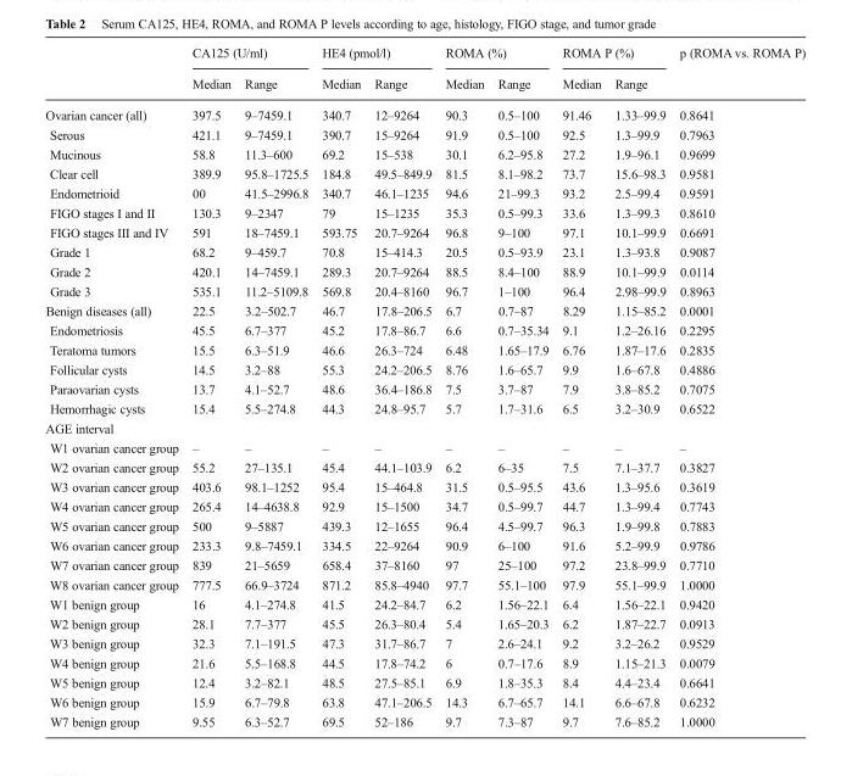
<table><thead><tr><td rowspan="2"></td><td colspan="2">CA125 (U/ml)</td><td colspan="2">HE4 (pmol/l)</td><td colspan="2">ROMA (%)</td><td colspan="2">ROMA P (%)</td><td rowspan="2">p (ROMA vs. ROMA P)</td></tr><tr><td>Median</td><td>Range</td><td>Median</td><td>Range</td><td>Median</td><td>Range</td><td>Median</td><td>Range</td></tr></thead><tbody><tr><td>Ovarian cancer (all)</td><td>397.5</td><td>9–7459.1</td><td>340.7</td><td>12–9264</td><td>90.3</td><td>0.5–100</td><td>91.46</td><td>1.33–99.9</td><td>0.8641</td></tr><tr><td>Serous</td><td>421.1</td><td>9–7459.1</td><td>390.7</td><td>15–9264</td><td>91.9</td><td>0.5–100</td><td>92.5</td><td>1.3–99.9</td><td>0.7963</td></tr><tr><td>Mucinous</td><td>58.8</td><td>11.3–600</td><td>69.2</td><td>15–538</td><td>30.1</td><td>6.2–95.8</td><td>27.2</td><td>1.9–96.1</td><td>0.9699</td></tr><tr><td>Clear cell</td><td>389.9</td><td>95.8–1725.5</td><td>184.8</td><td>49.5–849.9</td><td>81.5</td><td>8.1–98.2</td><td>73.7</td><td>15.6–98.3</td><td>0.9581</td></tr><tr><td>Endometrioid</td><td>00</td><td>41.5–2996.8</td><td>340.7</td><td>46.1–1235</td><td>94.6</td><td>21–99.3</td><td>93.2</td><td>2.5–99.4</td><td>0.9591</td></tr><tr><td>FIGO stages I and II</td><td>130.3</td><td>9–2347</td><td>79</td><td>15–1235</td><td>35.3</td><td>0.5–99.3</td><td>33.6</td><td>1.3–99.3</td><td>0.8610</td></tr><tr><td>FIGO stages III and IV</td><td>591</td><td>18–7459.1</td><td>593.75</td><td>20.7–9264</td><td>96.8</td><td>9–100</td><td>97.1</td><td>10.1–99.9</td><td>0.6691</td></tr><tr><td>Grade 1</td><td>68.2</td><td>9–459.7</td><td>70.8</td><td>15–414.3</td><td>20.5</td><td>0.5–93.9</td><td>23.1</td><td>1.3–93.8</td><td>0.9087</td></tr><tr><td>Grade 2</td><td>420.1</td><td>14–7459.1</td><td>289.3</td><td>20.7–9264</td><td>88.5</td><td>8.4–100</td><td>88.9</td><td>10.1–99.9</td><td>0.0114</td></tr><tr><td>Grade 3</td><td>535.1</td><td>11.2–5109.8</td><td>569.8</td><td>20.4–8160</td><td>96.7</td><td>1–100</td><td>96.4</td><td>2.98–99.9</td><td>0.8963</td></tr><tr><td>Benign diseases (all)</td><td>22.5</td><td>3.2–502.7</td><td>46.7</td><td>17.8–206.5</td><td>6.7</td><td>0.7–87</td><td>8.29</td><td>1.15–85.2</td><td>0.0001</td></tr><tr><td>Endometriosis</td><td>45.5</td><td>6.7–377</td><td>45.2</td><td>17.8–86.7</td><td>6.6</td><td>0.7–35.34</td><td>9.1</td><td>1.2–26.16</td><td>0.2295</td></tr><tr><td>Teratoma tumors</td><td>15.5</td><td>6.3–51.9</td><td>46.6</td><td>26.3–724</td><td>6.48</td><td>1.65–17.9</td><td>6.76</td><td>1.87–17.6</td><td>0.2835</td></tr><tr><td>Follicular cysts</td><td>14.5</td><td>3.2–88</td><td>55.3</td><td>24.2–206.5</td><td>8.76</td><td>1.6–65.7</td><td>9.9</td><td>1.6–67.8</td><td>0.4886</td></tr><tr><td>Paraovarian cysts</td><td>13.7</td><td>4.1–52.7</td><td>48.6</td><td>36.4–186.8</td><td>7.5</td><td>3.7–87</td><td>7.9</td><td>3.8–85.2</td><td>0.7075</td></tr><tr><td>Hemorrhagic cysts</td><td>15.4</td><td>5.5–274.8</td><td>44.3</td><td>24.8–95.7</td><td>5.7</td><td>1.7–31.6</td><td>6.5</td><td>3.2–30.9</td><td>0.6522</td></tr><tr><td colspan="10">AGE interval</td></tr><tr><td>W1 ovarian cancer group</td><td>–</td><td>–</td><td>–</td><td>–</td><td>–</td><td>–</td><td>–</td><td>–</td><td>–</td></tr><tr><td>W2 ovarian cancer group</td><td>55.2</td><td>27–135.1</td><td>45.4</td><td>44.1–103.9</td><td>6.2</td><td>6–35</td><td>7.5</td><td>7.1–37.7</td><td>0.3827</td></tr><tr><td>W3 ovarian cancer group</td><td>403.6</td><td>98.1–1252</td><td>95.4</td><td>15–464.8</td><td>31.5</td><td>0.5–95.5</td><td>43.6</td><td>1.3–95.6</td><td>0.3619</td></tr><tr><td>W4 ovarian cancer group</td><td>265.4</td><td>14–4638.8</td><td>92.9</td><td>15–1500</td><td>34.7</td><td>0.5–99.7</td><td>44.7</td><td>1.3–99.4</td><td>0.7743</td></tr><tr><td>W5 ovarian cancer group</td><td>500</td><td>9–5887</td><td>439.3</td><td>12–1655</td><td>96.4</td><td>4.5–99.7</td><td>96.3</td><td>1.9–99.8</td><td>0.7883</td></tr><tr><td>W6 ovarian cancer group</td><td>233.3</td><td>9.8–7459.1</td><td>334.5</td><td>22–9264</td><td>90.9</td><td>6–100</td><td>91.6</td><td>5.2–99.9</td><td>0.9786</td></tr><tr><td>W7 ovarian cancer group</td><td>839</td><td>21–5659</td><td>658.4</td><td>37–8160</td><td>97</td><td>25–100</td><td>97.2</td><td>23.8–99.9</td><td>0.7710</td></tr><tr><td>W8 ovarian cancer group</td><td>777.5</td><td>66.9–3724</td><td>871.2</td><td>85.8–4940</td><td>97.7</td><td>55.1–100</td><td>97.9</td><td>55.1–99.9</td><td>1.0000</td></tr><tr><td>W1 benign group</td><td>16</td><td>4.1–274.8</td><td>41.5</td><td>24.2–84.7</td><td>6.2</td><td>1.56–22.1</td><td>6.4</td><td>1.56–22.1</td><td>0.9420</td></tr><tr><td>W2 benign group</td><td>28.1</td><td>7.7–377</td><td>45.5</td><td>26.3–80.4</td><td>5.4</td><td>1.65–20.3</td><td>6.2</td><td>1.87–22.7</td><td>0.0913</td></tr><tr><td>W3 benign group</td><td>32.3</td><td>7.1–191.5</td><td>47.3</td><td>31.7–86.7</td><td>7</td><td>2.6–24.1</td><td>9.2</td><td>3.2–26.2</td><td>0.9529</td></tr><tr><td>W4 benign group</td><td>21.6</td><td>5.5–168.8</td><td>44.5</td><td>17.8–74.2</td><td>6</td><td>0.7–17.6</td><td>8.9</td><td>1.15–21.3</td><td>0.0079</td></tr><tr><td>W5 benign group</td><td>12.4</td><td>3.2–82.1</td><td>48.5</td><td>27.5–85.1</td><td>6.9</td><td>1.8–35.3</td><td>8.4</td><td>4.4–23.4</td><td>0.6641</td></tr><tr><td>W6 benign group</td><td>15.9</td><td>6.7–79.8</td><td>63.8</td><td>47.1–206.5</td><td>14.3</td><td>6.7–65.7</td><td>14.1</td><td>6.6–67.8</td><td>0.6232</td></tr><tr><td>W7 benign group</td><td>9.55</td><td>6.3–52.7</td><td>69.5</td><td>52–186</td><td>9.7</td><td>7.3–87</td><td>9.7</td><td>7.6–85.2</td><td>1.0000</td></tr></tbody></table>